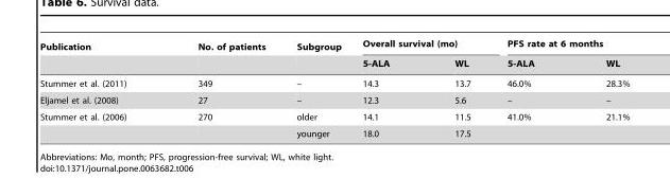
<table><thead><tr><td rowspan="2">Publication</td><td rowspan="2">No. of patients</td><td rowspan="2">Subgroup</td><td colspan="2">Overall survival (mo)</td><td colspan="2">PFS rate at 6 months</td></tr><tr><td>5-ALA</td><td>WL</td><td>5-ALA</td><td>WL</td></tr></thead><tbody><tr><td>Stummer et al. (2011)</td><td>349</td><td>–</td><td>14.3</td><td>13.7</td><td>46.0%</td><td>28.3%</td></tr><tr><td>Eljamel et al. (2008)</td><td>27</td><td>–</td><td>12.3</td><td>5.6</td><td>–</td><td>–</td></tr><tr><td rowspan="2">Stummer et al. (2006)</td><td>270</td><td>older</td><td>14.1</td><td>11.5</td><td>41.0%</td><td>21.1%</td></tr><tr><td></td><td>younger</td><td>18.0</td><td>17.5</td><td></td><td></td></tr></tbody></table>